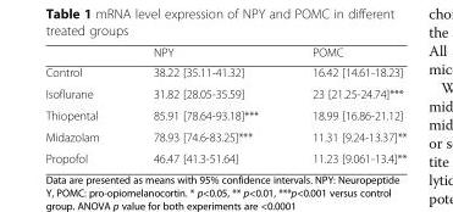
<table><thead><tr><td></td><td>NPY</td><td>POMC</td></tr></thead><tbody><tr><td>Control</td><td>38.22 [35.11-41.32]</td><td>16.42 [14.61-18.23]</td></tr><tr><td>Isoflurane</td><td>31.82 [28.05-35.59]</td><td>23 [21.25-24.74]***</td></tr><tr><td>Thiopental</td><td>85.91 [78.64-93.18]***</td><td>18.99 [16.86-21.12]</td></tr><tr><td>Midazolam</td><td>78.93 [74.6-83.25]***</td><td>11.31 [9.24-13.37]**</td></tr><tr><td>Propofol</td><td>46.47 [41.3-51.64]</td><td>11.23 [9.061-13.4]**</td></tr></tbody></table>